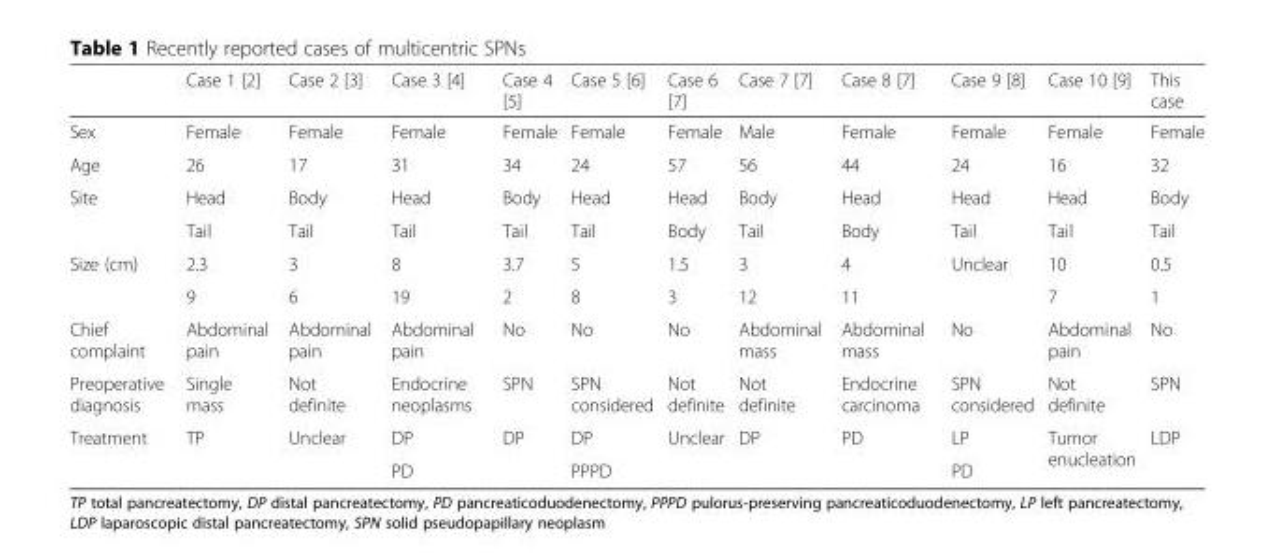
<table><thead><tr><td></td><td>Case 1 [2]</td><td>Case 2 [3]</td><td>Case 3 [4]</td><td>Case 4 [5]</td><td>Case 5 [6]</td><td>Case 6 [7]</td><td>Case 7 [7]</td><td>Case 8 [7]</td><td>Case 9 [8]</td><td>Case 10 [9]</td><td>This case</td></tr></thead><tbody><tr><td>Sex</td><td>Female</td><td>Female</td><td>Female</td><td>Female</td><td>Female</td><td>Female</td><td>Male</td><td>Female</td><td>Female</td><td>Female</td><td>Female</td></tr><tr><td>Age</td><td>26</td><td>17</td><td>31</td><td>34</td><td>24</td><td>57</td><td>56</td><td>44</td><td>24</td><td>16</td><td>32</td></tr><tr><td rowspan="2">Site</td><td>Head</td><td>Body</td><td>Head</td><td>Body</td><td>Head</td><td>Head</td><td>Body</td><td>Head</td><td>Head</td><td>Head</td><td>Body</td></tr><tr><td>Tail</td><td>Tail</td><td>Tail</td><td>Tail</td><td>Tail</td><td>Body</td><td>Tail</td><td>Body</td><td>Tail</td><td>Tail</td><td>Tail</td></tr><tr><td rowspan="2">Size (cm)</td><td>2.3</td><td>3</td><td>8</td><td>3.7</td><td>5</td><td>1.5</td><td>3</td><td>4</td><td rowspan="2">Unclear</td><td>10</td><td>0.5</td></tr><tr><td>9</td><td>6</td><td>19</td><td>2</td><td>8</td><td>3</td><td>12</td><td>11</td><td>7</td><td>1</td></tr><tr><td>Chief complaint</td><td>Abdominal pain</td><td>Abdominal pain</td><td>Abdominal pain</td><td>No</td><td>No</td><td>No</td><td>Abdominal mass</td><td>Abdominal mass</td><td>No</td><td>Abdominal pain</td><td>No</td></tr><tr><td>Preoperative diagnosis</td><td>Single mass</td><td>Not definite</td><td>Endocrine neoplasms</td><td>SPN</td><td>SPN considered</td><td>Not definite</td><td>Not definite</td><td>Endocrine carcinoma</td><td>SPN considered</td><td>Not definite</td><td>SPN</td></tr><tr><td rowspan="2">Treatment</td><td rowspan="2">TP</td><td rowspan="2">Unclear</td><td>DP</td><td rowspan="2">DP</td><td>DP</td><td rowspan="2">Unclear</td><td rowspan="2">DP</td><td rowspan="2">PD</td><td>LP</td><td rowspan="2">Tumor enucleation</td><td rowspan="2">LDP</td></tr><tr><td>PD</td><td>PPPD</td><td>PD</td></tr></tbody></table>